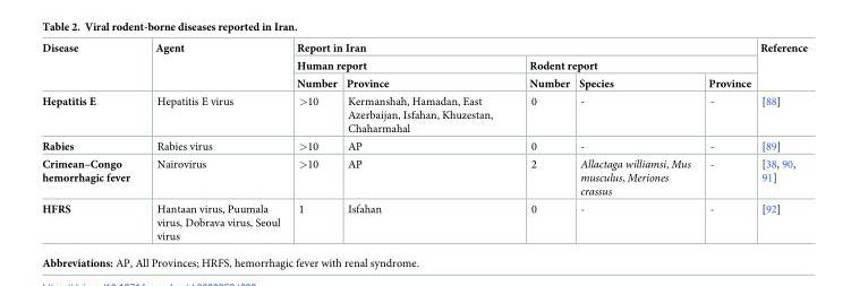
<table><thead><tr><td rowspan="3">Disease</td><td rowspan="3">Agent</td><td colspan="5">Report in Iran</td><td rowspan="3">Reference</td></tr><tr><td colspan="2">Human report</td><td colspan="3">Rodent report</td></tr><tr><td>Number</td><td>Province</td><td>Number</td><td>Species</td><td>Province</td></tr></thead><tbody><tr><td>Hepatitis E</td><td>Hepatitis E virus</td><td>&gt;10</td><td>Kermanshah, Hamadan, East Azerbaijan, Isfahan, Khuzestan, Chaharmahal</td><td>0</td><td>-</td><td>-</td><td>[88]</td></tr><tr><td>Rabies</td><td>Rabies virus</td><td>&gt;10</td><td>AP</td><td>0</td><td>-</td><td>-</td><td>[89]</td></tr><tr><td>Crimean–Congo hemorrhagic fever</td><td>Nairovirus</td><td>&gt;10</td><td>AP</td><td>2</td><td>Allactaga williamsi, Mus musculus, Meriones crassus</td><td>-</td><td>[38, 90, 91]</td></tr><tr><td>HFRS</td><td>Hantaan virus, Puumala virus, Dobrava virus, Seoul virus</td><td>1</td><td>Isfahan</td><td>0</td><td>-</td><td>-</td><td>[92]</td></tr></tbody></table>